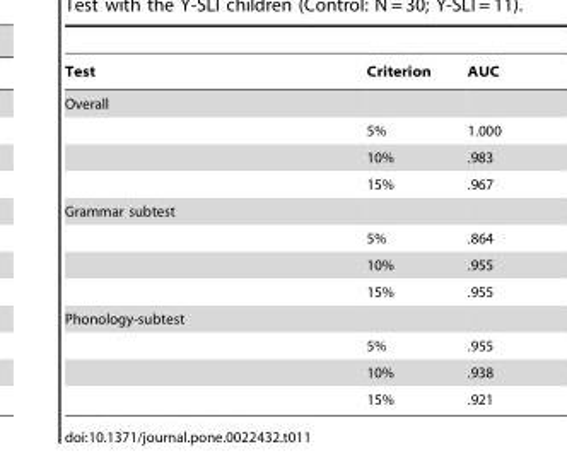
<table><thead><tr><td>Test</td><td>Criterion</td><td>AUC</td></tr></thead><tbody><tr><td colspan="3">Overall</td></tr><tr><td></td><td>5%</td><td>1.000</td></tr><tr><td></td><td>10%</td><td>.983</td></tr><tr><td></td><td>15%</td><td>.967</td></tr><tr><td colspan="3">Grammar subtest</td></tr><tr><td></td><td>5%</td><td>.864</td></tr><tr><td></td><td>10%</td><td>.955</td></tr><tr><td></td><td>15%</td><td>.955</td></tr><tr><td colspan="3">Phonology-subtest</td></tr><tr><td></td><td>5%</td><td>.955</td></tr><tr><td></td><td>10%</td><td>.938</td></tr><tr><td></td><td>15%</td><td>.921</td></tr></tbody></table>